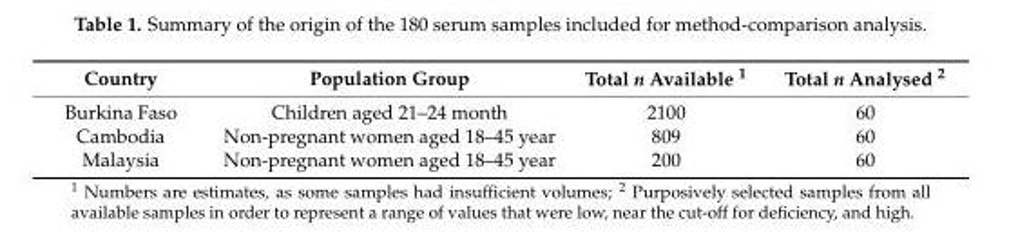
<table><thead><tr><td>Country</td><td>Population Group</td><td>Total n Available <sup>1</sup></td><td>Total n Analysed <sup>2</sup></td></tr></thead><tbody><tr><td>Burkina Faso</td><td>Children aged 21–24 month</td><td>2100</td><td>60</td></tr><tr><td>Cambodia</td><td>Non-pregnant women aged 18–45 year</td><td>809</td><td>60</td></tr><tr><td>Malaysia</td><td>Non-pregnant women aged 18–45 year</td><td>200</td><td>60</td></tr></tbody></table>